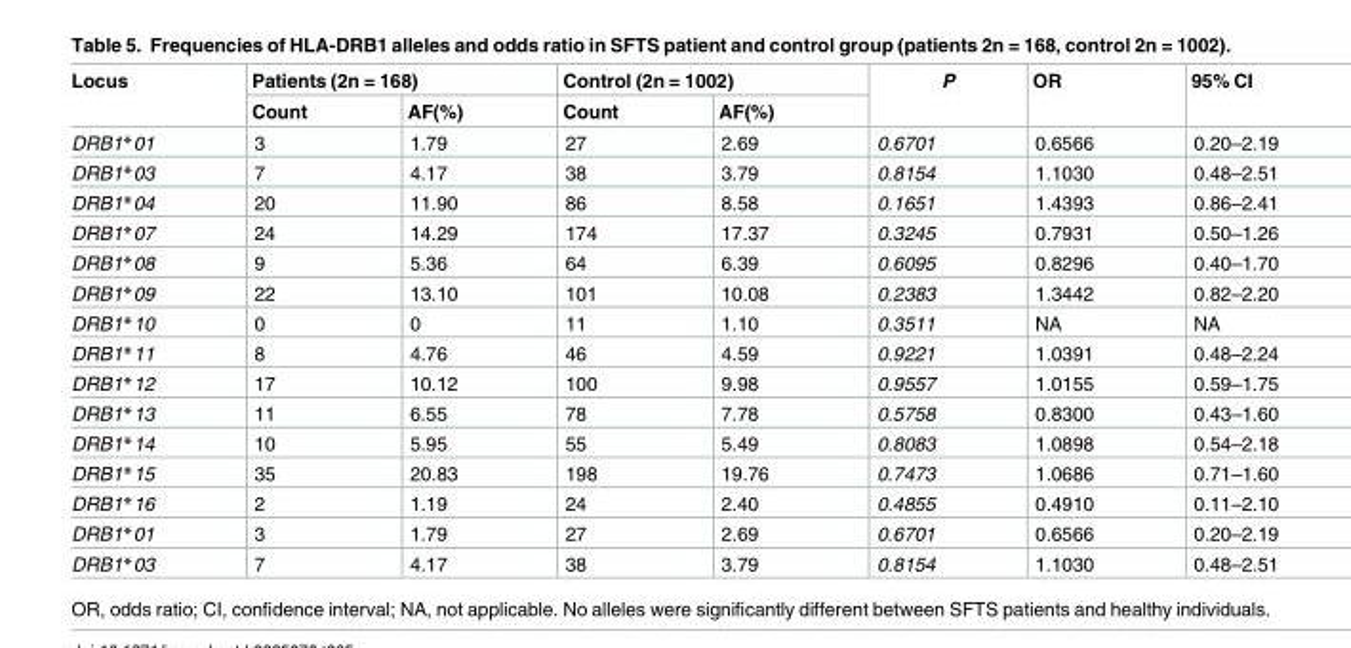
<table><thead><tr><td rowspan="2">Locus</td><td colspan="2">Patients (2n = 168)</td><td colspan="2">Control (2n = 1002)</td><td rowspan="2">P</td><td rowspan="2">OR</td><td rowspan="2">95% CI</td></tr><tr><td>Count</td><td>AF(%)</td><td>Count</td><td>AF(%)</td></tr></thead><tbody><tr><td>DRB1*01</td><td>3</td><td>1.79</td><td>27</td><td>2.69</td><td>0.6701</td><td>0.6566</td><td>0.20–2.19</td></tr><tr><td>DRB1*03</td><td>7</td><td>4.17</td><td>38</td><td>3.79</td><td>0.8154</td><td>1.1030</td><td>0.48–2.51</td></tr><tr><td>DRB1*04</td><td>20</td><td>11.90</td><td>86</td><td>8.58</td><td>0.1651</td><td>1.4393</td><td>0.86–2.41</td></tr><tr><td>DRB1*07</td><td>24</td><td>14.29</td><td>174</td><td>17.37</td><td>0.3245</td><td>0.7931</td><td>0.50–1.26</td></tr><tr><td>DRB1*08</td><td>9</td><td>5.36</td><td>64</td><td>6.39</td><td>0.6095</td><td>0.8296</td><td>0.40–1.70</td></tr><tr><td>DRB1*09</td><td>22</td><td>13.10</td><td>101</td><td>10.08</td><td>0.2383</td><td>1.3442</td><td>0.82–2.20</td></tr><tr><td>DRB1*10</td><td>0</td><td>0</td><td>11</td><td>1.10</td><td>0.3511</td><td>NA</td><td>NA</td></tr><tr><td>DRB1*11</td><td>8</td><td>4.76</td><td>46</td><td>4.59</td><td>0.9221</td><td>1.0391</td><td>0.48–2.24</td></tr><tr><td>DRB1*12</td><td>17</td><td>10.12</td><td>100</td><td>9.98</td><td>0.9557</td><td>1.0155</td><td>0.59–1.75</td></tr><tr><td>DRB1*13</td><td>11</td><td>6.55</td><td>78</td><td>7.78</td><td>0.5758</td><td>0.8300</td><td>0.43–1.60</td></tr><tr><td>DRB1*14</td><td>10</td><td>5.95</td><td>55</td><td>5.49</td><td>0.8083</td><td>1.0898</td><td>0.54–2.18</td></tr><tr><td>DRB1*15</td><td>35</td><td>20.83</td><td>198</td><td>19.76</td><td>0.7473</td><td>1.0686</td><td>0.71–1.60</td></tr><tr><td>DRB1*16</td><td>2</td><td>1.19</td><td>24</td><td>2.40</td><td>0.4855</td><td>0.4910</td><td>0.11–2.10</td></tr><tr><td>DRB1*01</td><td>3</td><td>1.79</td><td>27</td><td>2.69</td><td>0.6701</td><td>0.6566</td><td>0.20–2.19</td></tr><tr><td>DRB1*03</td><td>7</td><td>4.17</td><td>38</td><td>3.79</td><td>0.8154</td><td>1.1030</td><td>0.48–2.51</td></tr></tbody></table>